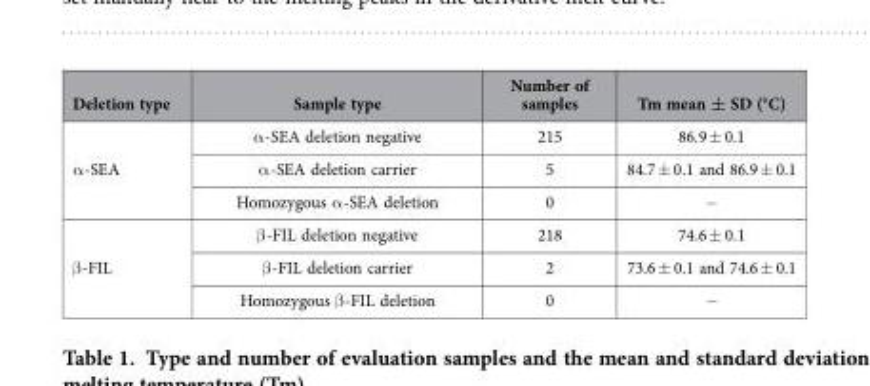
<table><thead><tr><td>Deletion type</td><td>Sample type</td><td>Number of samples</td><td>Tm mean ± SD (°C)</td></tr></thead><tbody><tr><td rowspan="3">α -SEA</td><td>α -SEA deletion negative</td><td>215</td><td>86.9 ± 0.1</td></tr><tr><td>α -SEA deletion carrier</td><td>5</td><td>84.7 ± 0.1 and 86.9 ± 0.1</td></tr><tr><td>Homozygous α -SEA deletion</td><td>0</td><td>−</td></tr><tr><td rowspan="3">β -FIL</td><td>β -FIL deletion negative</td><td>218</td><td>74.6 ± 0.1</td></tr><tr><td>β -FIL deletion carrier</td><td>2</td><td>73.6 ± 0.1 and 74.6 ± 0.1</td></tr><tr><td>Homozygous β -FIL deletion</td><td>0</td><td>−</td></tr></tbody></table>